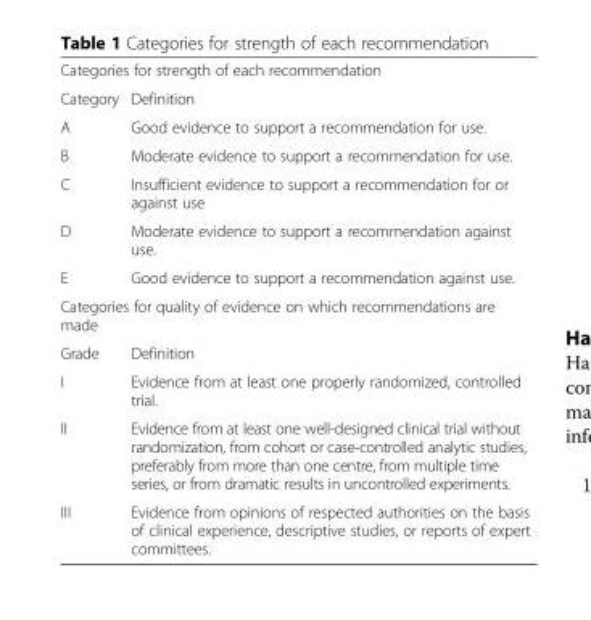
<table><tbody><tr><td colspan="2">Categories for strength of each recommendation</td></tr><tr><td>Category</td><td>Definition</td></tr><tr><td>A</td><td>Good evidence to support a recommendation for use.</td></tr><tr><td>B</td><td>Moderate evidence to support a recommendation for use.</td></tr><tr><td>C</td><td>Insufficient evidence to support a recommendation for or against use</td></tr><tr><td>D</td><td>Moderate evidence to support a recommendation against use.</td></tr><tr><td>E</td><td>Good evidence to support a recommendation against use.</td></tr><tr><td colspan="2">Categories for quality of evidence on which recommendations are made</td></tr><tr><td>Grade</td><td>Definition</td></tr><tr><td>I</td><td>Evidence from at least one properly randomized, controlled trial.</td></tr><tr><td>II</td><td>Evidence from at least one well-designed clinical trial without randomization, from cohort or case-controlled analytic studies, preferably from more than one centre, from multiple time series, or from dramatic results in uncontrolled experiments.</td></tr><tr><td>III</td><td>Evidence from opinions of respected authorities on the basis of clinical experience, descriptive studies, or reports of expert committees.</td></tr></tbody></table>